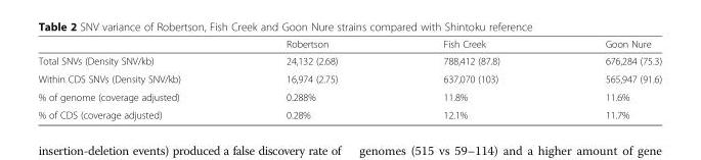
<table><thead><tr><td></td><td>Robertson</td><td>Fish Creek</td><td>Goon Nure</td></tr></thead><tbody><tr><td>Total SNVs (Density SNV/kb)</td><td>24,132 (2.68)</td><td>788,412 (87.8)</td><td>676,284 (75.3)</td></tr><tr><td>Within CDS SNVs (Density SNV/kb)</td><td>16,974 (2.75)</td><td>637,070 (103)</td><td>565,947 (91.6)</td></tr><tr><td>% of genome (coverage adjusted)</td><td>0.288%</td><td>11.8%</td><td>11.6%</td></tr><tr><td>% of CDS (coverage adjusted)</td><td>0.28%</td><td>12.1%</td><td>11.7%</td></tr></tbody></table>